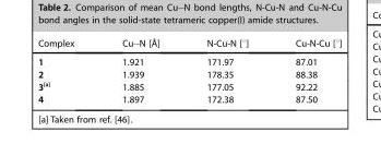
<table><thead><tr><td>Complex</td><td>Cu—N [Å]</td><td>N-Cu-N [°]</td><td>Cu-N-Cu [°]</td></tr></thead><tbody><tr><td>1</td><td>1.921</td><td>171.97</td><td>87.01</td></tr><tr><td>2</td><td>1.939</td><td>178.35</td><td>88.38</td></tr><tr><td>3[a]</td><td>1.885</td><td>177.05</td><td>92.22</td></tr><tr><td>4</td><td>1.897</td><td>172.38</td><td>87.50</td></tr></tbody></table>